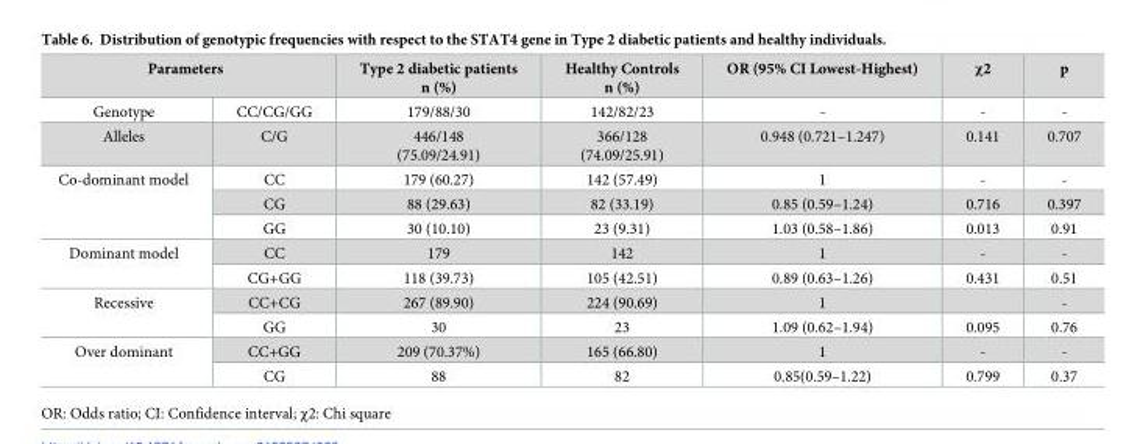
<table><thead><tr><td colspan="2">Parameters</td><td rowspan="2">Type 2 diabetic patients n (%) 179/88/30</td><td rowspan="2">Healthy Controls n (%) 142/82/23</td><td rowspan="2">OR (95% CI Lowest-Highest) -</td><td rowspan="2">χ2 -</td><td rowspan="2">p -</td></tr><tr><td>Genotype</td><td>CC/CG/GG</td></tr></thead><tbody><tr><td>Alleles</td><td>C/G</td><td>446/148 (75.09/24.91)</td><td>366/128 (74.09/25.91)</td><td>0.948 (0.721–1.247)</td><td>0.141</td><td>0.707</td></tr><tr><td rowspan="3">Co-dominant model</td><td>CC</td><td>179 (60.27)</td><td>142 (57.49)</td><td>1</td><td>-</td><td>-</td></tr><tr><td>CG</td><td>88 (29.63)</td><td>82 (33.19)</td><td>0.85 (0.59–1.24)</td><td>0.716</td><td>0.397</td></tr><tr><td>GG</td><td>30 (10.10)</td><td>23 (9.31)</td><td>1.03 (0.58–1.86)</td><td>0.013</td><td>0.91</td></tr><tr><td rowspan="2">Dominant model</td><td>CC</td><td>179</td><td>142</td><td>1</td><td>-</td><td>-</td></tr><tr><td>CG+GG</td><td>118 (39.73)</td><td>105 (42.51)</td><td>0.89 (0.63–1.26)</td><td>0.431</td><td>0.51</td></tr><tr><td rowspan="2">Recessive</td><td>CC+CG</td><td>267 (89.90)</td><td>224 (90.69)</td><td>1</td><td></td><td>-</td></tr><tr><td>GG</td><td>30</td><td>23</td><td>1.09 (0.62–1.94)</td><td>0.095</td><td>0.76</td></tr><tr><td rowspan="2">Over dominant</td><td>CC+GG</td><td>209 (70.37%)</td><td>165 (66.80)</td><td>1</td><td>-</td><td>-</td></tr><tr><td>CG</td><td>88</td><td>82</td><td>0.85(0.59–1.22)</td><td>0.799</td><td>0.37</td></tr></tbody></table>